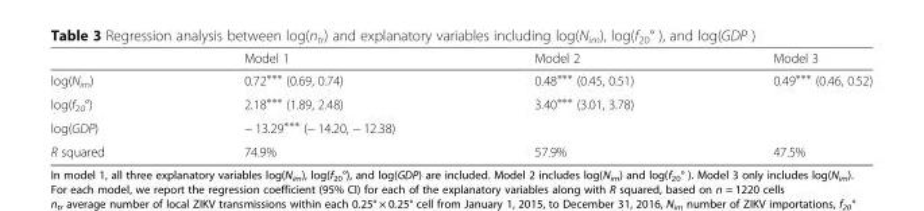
<table><thead><tr><td></td><td>Model 1</td><td>Model 2</td><td>Model 3</td></tr></thead><tbody><tr><td>log(N<sub>im</sub>)</td><td>0.72∗∗∗ (0.69, 0.74)</td><td>0.48∗∗∗ (0.45, 0.51)</td><td>0.49∗∗∗ (0.46, 0.52)</td></tr><tr><td>log(f<sub>20</sub>°)</td><td>2.18∗∗∗ (1.89, 2.48)</td><td>3.40∗∗∗ (3.01, 3.78)</td><td></td></tr><tr><td>log(GDP)</td><td>− 13.29∗∗∗ (− 14.20, − 12.38)</td><td></td><td></td></tr><tr><td>R squared</td><td>74.9%</td><td>57.9%</td><td>47.5%</td></tr></tbody></table>